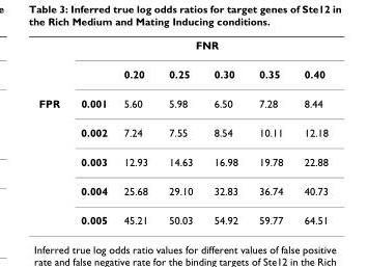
<table><thead><tr><td rowspan="2"></td><td colspan="6">FNR</td></tr><tr><td></td><td>0.20</td><td>0.25</td><td>0.30</td><td>0.35</td><td>0.40</td></tr></thead><tbody><tr><td rowspan="5">FPR</td><td>0.001</td><td>5.60</td><td>5.98</td><td>6.50</td><td>7.28</td><td>8.44</td></tr><tr><td>0.002</td><td>7.24</td><td>7.55</td><td>8.54</td><td>10.11</td><td>12.18</td></tr><tr><td>0.003</td><td>12.93</td><td>14.63</td><td>16.98</td><td>19.78</td><td>22.88</td></tr><tr><td>0.004</td><td>25.68</td><td>29.10</td><td>32.83</td><td>36.74</td><td>40.73</td></tr><tr><td>0.005</td><td>45.21</td><td>50.03</td><td>54.92</td><td>59.77</td><td>64.51</td></tr></tbody></table>